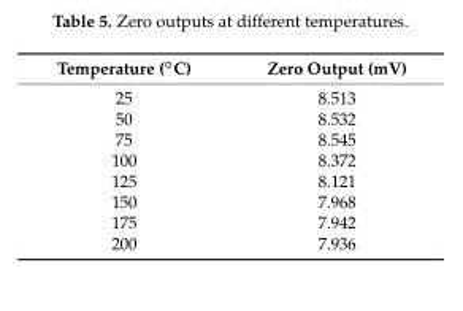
<table><thead><tr><td>Temperature (◦C)</td><td>Zero Output (mV)</td></tr></thead><tbody><tr><td>25</td><td>8.513</td></tr><tr><td>50</td><td>8.532</td></tr><tr><td>75</td><td>8.545</td></tr><tr><td>100</td><td>8.372</td></tr><tr><td>125</td><td>8.121</td></tr><tr><td>150</td><td>7.968</td></tr><tr><td>175</td><td>7.942</td></tr><tr><td>200</td><td>7.936</td></tr></tbody></table>